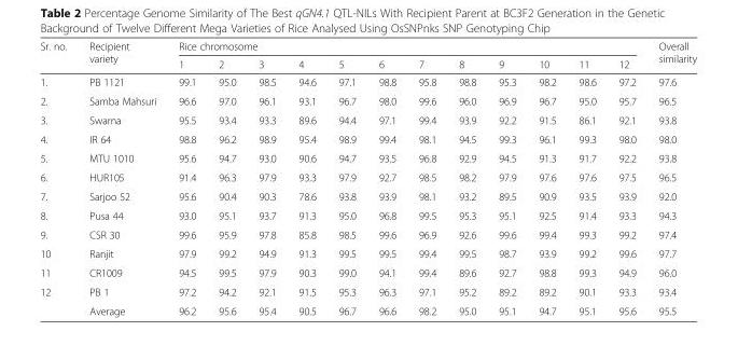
<table><thead><tr><td rowspan="2">Sr. no.</td><td rowspan="2">Recipient variety</td><td colspan="12">Rice chromosome</td><td rowspan="2">Overall similarity</td></tr><tr><td>1</td><td>2</td><td>3</td><td>4</td><td>5</td><td>6</td><td>7</td><td>8</td><td>9</td><td>10</td><td>11</td><td>12</td></tr></thead><tbody><tr><td>1.</td><td>PB 1121</td><td>99.1</td><td>95.0</td><td>98.5</td><td>94.6</td><td>97.1</td><td>98.8</td><td>95.8</td><td>98.8</td><td>95.3</td><td>98.2</td><td>98.6</td><td>97.2</td><td>97.6</td></tr><tr><td>2.</td><td>Samba Mahsuri</td><td>96.6</td><td>97.0</td><td>96.1</td><td>93.1</td><td>96.7</td><td>98.0</td><td>99.6</td><td>96.0</td><td>96.9</td><td>96.7</td><td>95.0</td><td>95.7</td><td>96.5</td></tr><tr><td>3.</td><td>Swarna</td><td>95.5</td><td>93.4</td><td>93.3</td><td>89.6</td><td>94.4</td><td>97.1</td><td>99.4</td><td>93.9</td><td>92.2</td><td>91.5</td><td>86.1</td><td>92.1</td><td>93.8</td></tr><tr><td>4.</td><td>IR 64</td><td>98.8</td><td>96.2</td><td>98.9</td><td>95.4</td><td>98.9</td><td>99.4</td><td>98.1</td><td>94.5</td><td>99.3</td><td>96.1</td><td>99.3</td><td>98.0</td><td>98.0</td></tr><tr><td>5.</td><td>MTU 1010</td><td>95.6</td><td>94.7</td><td>93.0</td><td>90.6</td><td>94.7</td><td>93.5</td><td>96.8</td><td>92.9</td><td>94.5</td><td>91.3</td><td>91.7</td><td>92.2</td><td>93.8</td></tr><tr><td>6.</td><td>HUR105</td><td>91.4</td><td>96.3</td><td>97.9</td><td>93.3</td><td>97.9</td><td>92.7</td><td>98.5</td><td>98.2</td><td>97.9</td><td>97.6</td><td>97.6</td><td>97.5</td><td>96.5</td></tr><tr><td>7.</td><td>Sarjoo 52</td><td>95.6</td><td>90.4</td><td>90.3</td><td>78.6</td><td>93.8</td><td>93.9</td><td>98.1</td><td>93.2</td><td>89.5</td><td>90.9</td><td>93.5</td><td>93.9</td><td>92.0</td></tr><tr><td>8.</td><td>Pusa 44</td><td>93.0</td><td>95.1</td><td>93.7</td><td>91.3</td><td>95.0</td><td>96.8</td><td>99.5</td><td>95.3</td><td>95.1</td><td>92.5</td><td>91.4</td><td>93.3</td><td>94.3</td></tr><tr><td>9.</td><td>CSR 30</td><td>99.6</td><td>95.9</td><td>97.8</td><td>85.8</td><td>98.5</td><td>99.6</td><td>96.9</td><td>92.6</td><td>99.6</td><td>99.4</td><td>99.3</td><td>99.2</td><td>97.4</td></tr><tr><td>10</td><td>Ranjit</td><td>97.9</td><td>99.2</td><td>94.9</td><td>91.3</td><td>99.5</td><td>99.5</td><td>99.4</td><td>99.5</td><td>98.7</td><td>93.9</td><td>99.2</td><td>99.6</td><td>97.7</td></tr><tr><td>11</td><td>CR1009</td><td>94.5</td><td>99.5</td><td>97.9</td><td>90.3</td><td>99.0</td><td>94.1</td><td>99.4</td><td>89.6</td><td>92.7</td><td>98.8</td><td>99.3</td><td>94.9</td><td>96.0</td></tr><tr><td rowspan="2">12</td><td>PB 1</td><td>97.2</td><td>94.2</td><td>92.1</td><td>91.5</td><td>95.3</td><td>96.3</td><td>97.1</td><td>95.2</td><td>89.2</td><td>89.2</td><td>90.1</td><td>93.3</td><td>93.4</td></tr><tr><td>Average</td><td>96.2</td><td>95.6</td><td>95.4</td><td>90.5</td><td>96.7</td><td>96.6</td><td>98.2</td><td>95.0</td><td>95.1</td><td>94.7</td><td>95.1</td><td>95.6</td><td>95.5</td></tr></tbody></table>